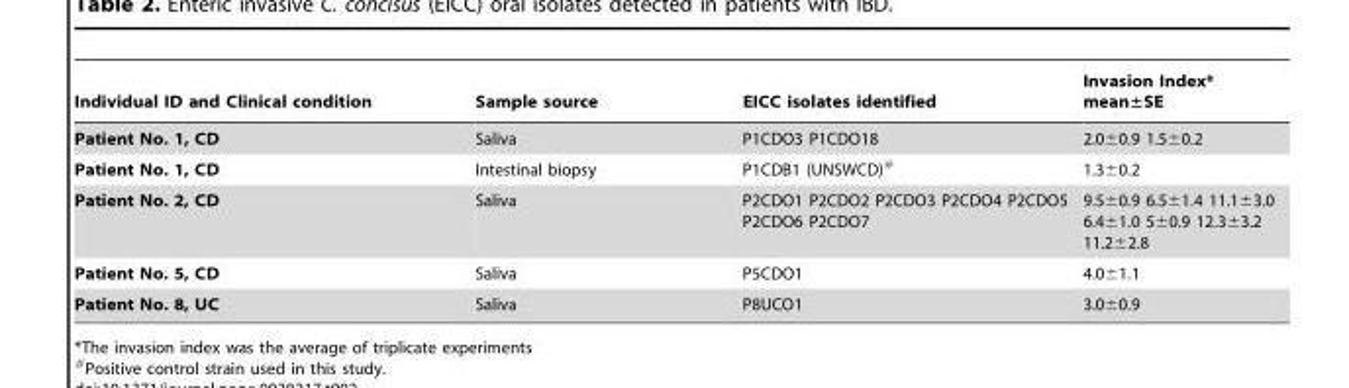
<table><thead><tr><td>Individual ID and Clinical condition</td><td>Sample source</td><td>EICC isolates identified</td><td>Invasion Index* mean±SE</td></tr></thead><tbody><tr><td>Patient No. 1, CD</td><td>Saliva</td><td>P1CDO3 P1CDO18</td><td>2.0±0.9 1.5±0.2</td></tr><tr><td>Patient No. 1, CD</td><td>Intestinal biopsy</td><td>P1CDB1 (UNSWCD)#</td><td>1.3±0.2</td></tr><tr><td>Patient No. 2, CD</td><td>Saliva</td><td>P2CDO1 P2CDO2 P2CDO3 P2CDO4 P2CDO5 P2CDO6 P2CDO7</td><td>9.5±0.9 6.5±1.4 11.1±3.0 6.4±1.0 5±0.9 12.3±3.2 11.2±2.8</td></tr><tr><td>Patient No. 5, CD</td><td>Saliva</td><td>P5CDO1</td><td>4.0±1.1</td></tr><tr><td>Patient No. 8, UC</td><td>Saliva</td><td>P8UCO1</td><td>3.0±0.9</td></tr></tbody></table>